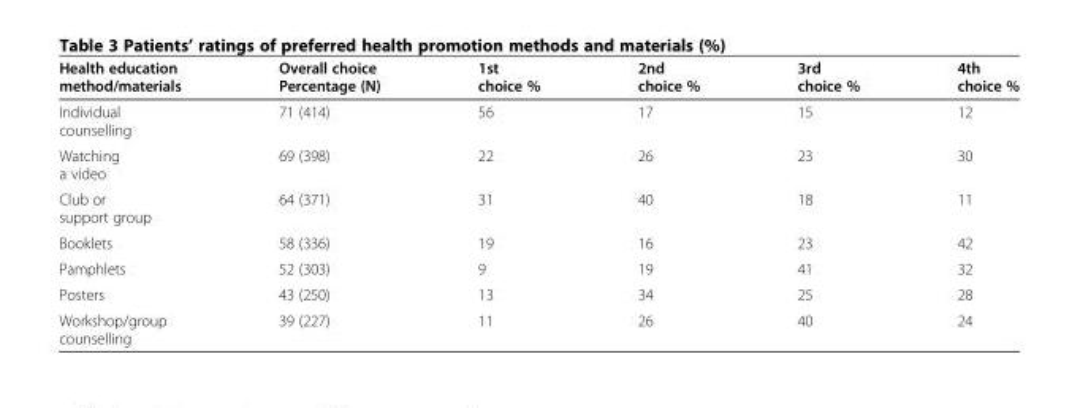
<table><thead><tr><td>Health education method/materials</td><td>Overall choice Percentage (N)</td><td>1st choice %</td><td>2nd choice %</td><td>3rd choice %</td><td>4th choice %</td></tr></thead><tbody><tr><td>Individual counselling</td><td>71 (414)</td><td>56</td><td>17</td><td>15</td><td>12</td></tr><tr><td>Watching a video</td><td>69 (398)</td><td>22</td><td>26</td><td>23</td><td>30</td></tr><tr><td>Club or support group</td><td>64 (371)</td><td>31</td><td>40</td><td>18</td><td>11</td></tr><tr><td>Booklets</td><td>58 (336)</td><td>19</td><td>16</td><td>23</td><td>42</td></tr><tr><td>Pamphlets</td><td>52 (303)</td><td>9</td><td>19</td><td>41</td><td>32</td></tr><tr><td>Posters</td><td>43 (250)</td><td>13</td><td>34</td><td>25</td><td>28</td></tr><tr><td>Workshop/group counselling</td><td>39 (227)</td><td>11</td><td>26</td><td>40</td><td>24</td></tr></tbody></table>